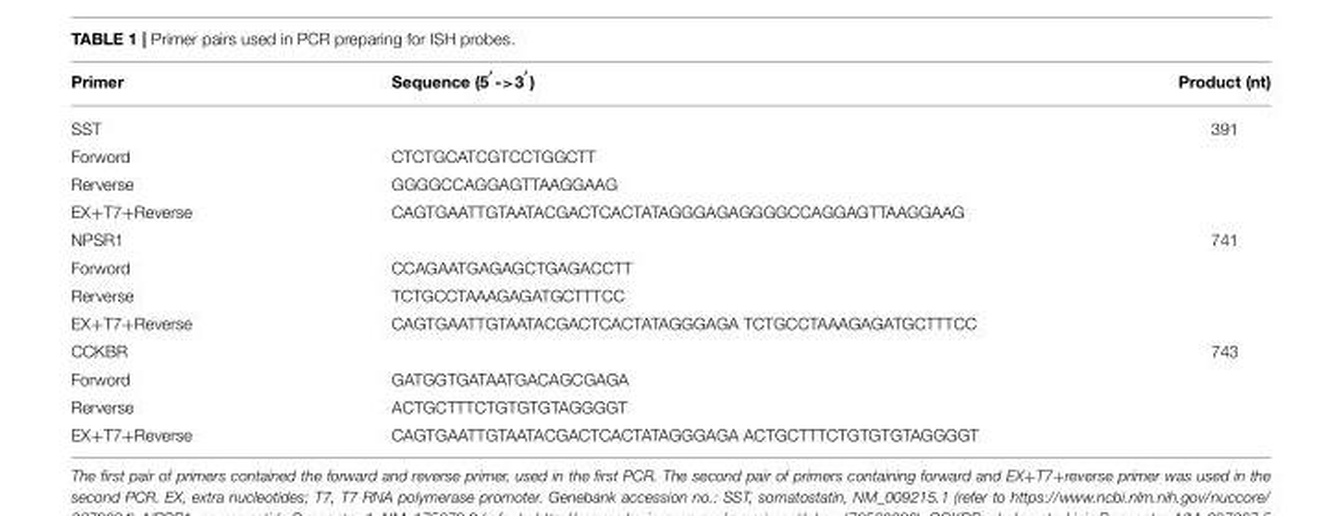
<table><thead><tr><td>Primer</td><td>Sequence (5 ′-&gt;3 ′ )</td><td>Product (nt)</td></tr></thead><tbody><tr><td>SST</td><td></td><td>391</td></tr><tr><td>Forword</td><td>CTCTGCATCGTCCTGGCTT</td><td></td></tr><tr><td>Rerverse</td><td>GGGGCCAGGAGTTAAGGAAG</td><td></td></tr><tr><td>EX+T7+Reverse</td><td>CAGTGAATTGTAATACGACTCACTATAGGGAGAGGGGCCAGGAGTTAAGGAAG</td><td></td></tr><tr><td>NPSR1</td><td></td><td>741</td></tr><tr><td>Forword</td><td>CCAGAATGAGAGCTGAGACCTT</td><td></td></tr><tr><td>Rerverse</td><td>TCTGCCTAAAGAGATGCTTTCC</td><td></td></tr><tr><td>EX+T7+Reverse</td><td>CAGTGAATTGTAATACGACTCACTATAGGGAGA TCTGCCTAAAGAGATGCTTTCC</td><td></td></tr><tr><td>CCKBR</td><td></td><td>743</td></tr><tr><td>Forword</td><td>GATGGTGATAATGACAGCGAGA</td><td></td></tr><tr><td>Rerverse</td><td>ACTGCTTTCTGTGTGTAGGGGT</td><td></td></tr><tr><td>EX+T7+Reverse</td><td>CAGTGAATTGTAATACGACTCACTATAGGGAGA ACTGCTTTCTGTGTGTAGGGGT</td><td></td></tr></tbody></table>